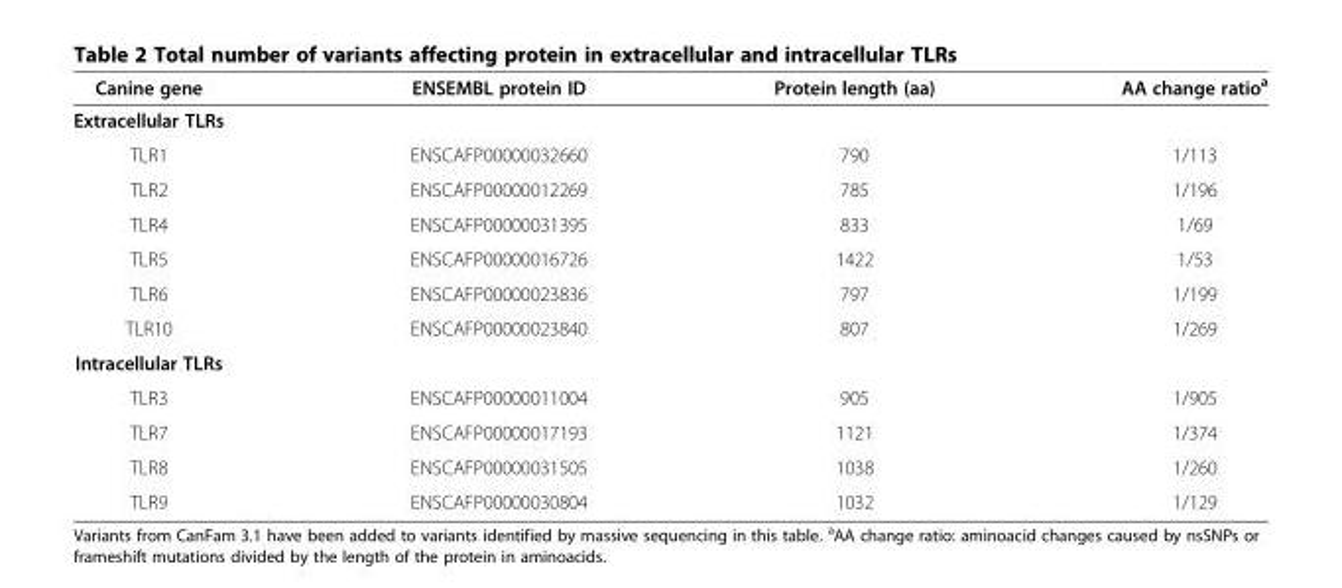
<table><thead><tr><td>Canine gene</td><td>ENSEMBL protein ID</td><td>Protein length (aa)</td><td>AA change ratio<sup>a</sup></td></tr></thead><tbody><tr><td colspan="4">Extracellular TLRs</td></tr><tr><td>TLR1</td><td>ENSCAFP00000032660</td><td>790</td><td>1/113</td></tr><tr><td>TLR2</td><td>ENSCAFP00000012269</td><td>785</td><td>1/196</td></tr><tr><td>TLR4</td><td>ENSCAFP00000031395</td><td>833</td><td>1/69</td></tr><tr><td>TLR5</td><td>ENSCAFP00000016726</td><td>1422</td><td>1/53</td></tr><tr><td>TLR6</td><td>ENSCAFP00000023836</td><td>797</td><td>1/199</td></tr><tr><td>TLR10</td><td>ENSCAFP00000023840</td><td>807</td><td>1/269</td></tr><tr><td colspan="4">Intracellular TLRs</td></tr><tr><td>TLR3</td><td>ENSCAFP00000011004</td><td>905</td><td>1/905</td></tr><tr><td>TLR7</td><td>ENSCAFP00000017193</td><td>1121</td><td>1/374</td></tr><tr><td>TLR8</td><td>ENSCAFP00000031505</td><td>1038</td><td>1/260</td></tr><tr><td>TLR9</td><td>ENSCAFP00000030804</td><td>1032</td><td>1/129</td></tr></tbody></table>